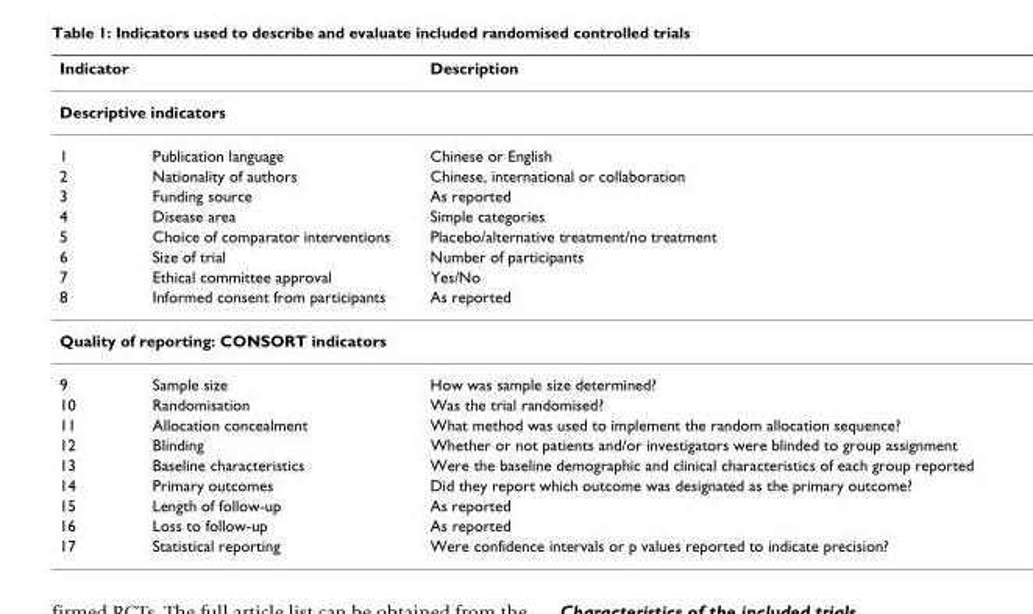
<table><thead><tr><td>Indicator</td><td></td><td>Description</td></tr></thead><tbody><tr><td colspan="3">Descriptive indicators</td></tr><tr><td>1</td><td>Publication language</td><td>Chinese or English</td></tr><tr><td>2</td><td>Nationality of authors</td><td>Chinese, international or collaboration</td></tr><tr><td>3</td><td>Funding source</td><td>As reported</td></tr><tr><td>4</td><td>Disease area</td><td>Simple categories</td></tr><tr><td>5</td><td>Choice of comparator interventions</td><td>Placebo/alternative treatment/no treatment</td></tr><tr><td>6</td><td>Size of trial</td><td>Number of participants</td></tr><tr><td>7</td><td>Ethical committee approval</td><td>Yes/No</td></tr><tr><td>8</td><td>Informed consent from participants</td><td>As reported</td></tr><tr><td colspan="3">Quality of reporting: CONSORT indicators</td></tr><tr><td>9</td><td>Sample size</td><td>How was sample size determined?</td></tr><tr><td>10</td><td>Randomisation</td><td>Was the trial randomised?</td></tr><tr><td>11</td><td>Allocation concealment</td><td>What method was used to implement the random allocation sequence?</td></tr><tr><td>12</td><td>Blinding</td><td>Whether or not patients and/or investigators were blinded to group assignment</td></tr><tr><td>13</td><td>Baseline characteristics</td><td>Were the baseline demographic and clinical characteristics of each group reported</td></tr><tr><td>14</td><td>Primary outcomes</td><td>Did they report which outcome was designated as the primary outcome?</td></tr><tr><td>15</td><td>Length of follow-up</td><td>As reported</td></tr><tr><td>16</td><td>Loss to follow-up</td><td>As reported</td></tr><tr><td>17</td><td>Statistical reporting</td><td>Were confidence intervals or p values reported to indicate precision?</td></tr></tbody></table>